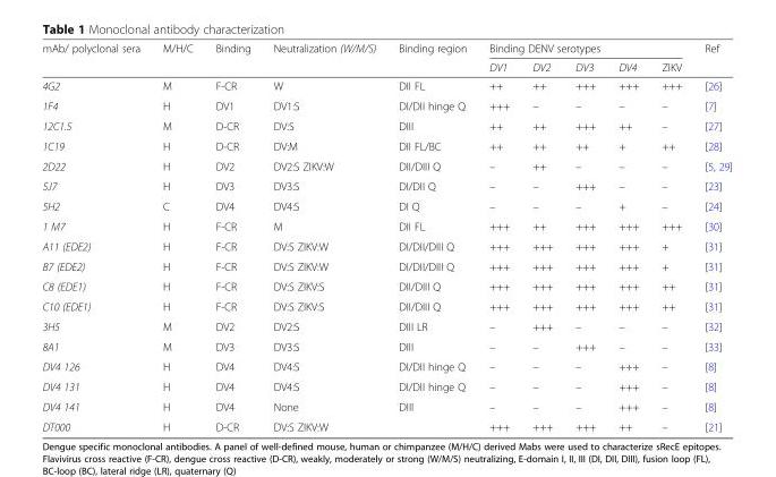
<table><thead><tr><td rowspan="2">mAb/ polyclonal sera</td><td rowspan="2">M/H/C</td><td rowspan="2">Binding</td><td rowspan="2">Neutralization (W/M/S)</td><td rowspan="2">Binding region</td><td colspan="5">Binding DENV serotypes</td><td rowspan="2">Ref</td></tr><tr><td>DV1</td><td>DV2</td><td>DV3</td><td>DV4</td><td>ZIKV</td></tr></thead><tbody><tr><td>4G2</td><td>M</td><td>F-CR</td><td>W</td><td>DII FL</td><td>++</td><td>++</td><td>+++</td><td>+++</td><td>+++</td><td>[26]</td></tr><tr><td>1F4</td><td>H</td><td>DV1</td><td>DV1:S</td><td>DI/DII hinge Q</td><td>+++</td><td>–</td><td>–</td><td>–</td><td>–</td><td>[7]</td></tr><tr><td>12C1.5</td><td>M</td><td>D-CR</td><td>DV:S</td><td>DIII</td><td>++</td><td>++</td><td>+++</td><td>++</td><td>–</td><td>[27]</td></tr><tr><td>1C19</td><td>H</td><td>D-CR</td><td>DV:M</td><td>DII FL/BC</td><td>++</td><td>++</td><td>++</td><td>+</td><td>++</td><td>[28]</td></tr><tr><td>2D22</td><td>H</td><td>DV2</td><td>DV2:S ZIKV:W</td><td>DII/DIII Q</td><td>–</td><td>++</td><td>–</td><td>–</td><td>–</td><td>[5, 29]</td></tr><tr><td>5J7</td><td>H</td><td>DV3</td><td>DV3:S</td><td>DI/DII Q</td><td>–</td><td>–</td><td>+++</td><td>–</td><td>–</td><td>[23]</td></tr><tr><td>5H2</td><td>C</td><td>DV4</td><td>DV4:S</td><td>DI Q</td><td>–</td><td>–</td><td>–</td><td>+</td><td>–</td><td>[24]</td></tr><tr><td>1 M7</td><td>H</td><td>F-CR</td><td>M</td><td>DII FL</td><td>+++</td><td>++</td><td>+++</td><td>+++</td><td>+++</td><td>[30]</td></tr><tr><td>A11 (EDE2)</td><td>H</td><td>F-CR</td><td>DV:S ZIKV:W</td><td>DI/DII/DIII Q</td><td>+++</td><td>+++</td><td>+++</td><td>+++</td><td>+</td><td>[31]</td></tr><tr><td>B7 (EDE2)</td><td>H</td><td>F-CR</td><td>DV:S ZIKV:W</td><td>DI/DII/DIII Q</td><td>+++</td><td>+++</td><td>+++</td><td>+++</td><td>+</td><td>[31]</td></tr><tr><td>C8 (EDE1)</td><td>H</td><td>F-CR</td><td>DV:S ZIKV:S</td><td>DII/DIII Q</td><td>+++</td><td>+++</td><td>+++</td><td>+++</td><td>++</td><td>[31]</td></tr><tr><td>C10 (EDE1)</td><td>H</td><td>F-CR</td><td>DV:S ZIKV:S</td><td>DII/DIII Q</td><td>+++</td><td>+++</td><td>+++</td><td>+++</td><td>++</td><td>[31]</td></tr><tr><td>3H5</td><td>M</td><td>DV2</td><td>DV2:S</td><td>DIII LR</td><td>–</td><td>+++</td><td>–</td><td>–</td><td>–</td><td>[32]</td></tr><tr><td>8A1</td><td>M</td><td>DV3</td><td>DV3:S</td><td>DIII</td><td>–</td><td>–</td><td>+++</td><td>–</td><td>–</td><td>[33]</td></tr><tr><td>DV4 126</td><td>H</td><td>DV4</td><td>DV4:S</td><td>DI/DII hinge Q</td><td>–</td><td>–</td><td>–</td><td>+++</td><td>–</td><td>[8]</td></tr><tr><td>DV4 131</td><td>H</td><td>DV4</td><td>DV4:S</td><td>DI/DII hinge Q</td><td>–</td><td>–</td><td>–</td><td>+++</td><td>–</td><td>[8]</td></tr><tr><td>DV4 141</td><td>H</td><td>DV4</td><td>None</td><td>DIII</td><td>–</td><td>–</td><td>–</td><td>+++</td><td>–</td><td>[8]</td></tr><tr><td>DT000</td><td>H</td><td>D-CR</td><td>DV:S ZIKV:W</td><td></td><td>+++</td><td>+++</td><td>+++</td><td>++</td><td>–</td><td>[21]</td></tr></tbody></table>